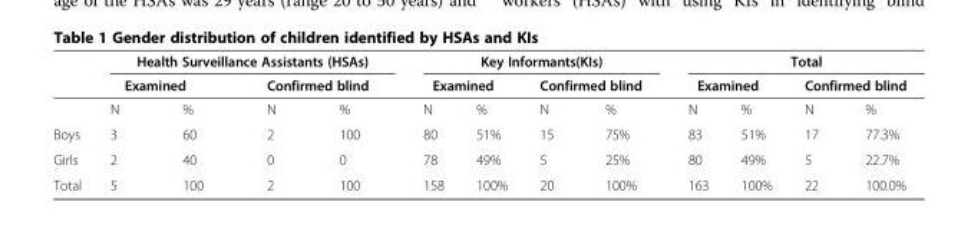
<table><thead><tr><td rowspan="3"></td><td colspan="4">Health Surveillance Assistants (HSAs)</td><td colspan="4">Key Informants(KIs)</td><td colspan="4">Total</td></tr><tr><td colspan="2">Examined</td><td colspan="2">Confirmed blind</td><td colspan="2">Examined</td><td colspan="2">Confirmed blind</td><td colspan="2">Examined</td><td colspan="2">Confirmed blind</td></tr><tr><td>N</td><td>%</td><td>N</td><td>%</td><td>N</td><td>%</td><td>N</td><td>%</td><td>N</td><td>%</td><td>N</td><td>%</td></tr></thead><tbody><tr><td>Boys</td><td>3</td><td>60</td><td>2</td><td>100</td><td>80</td><td>51%</td><td>15</td><td>75%</td><td>83</td><td>51%</td><td>17</td><td>77.3%</td></tr><tr><td>Girls</td><td>2</td><td>40</td><td>0</td><td>0</td><td>78</td><td>49%</td><td>5</td><td>25%</td><td>80</td><td>49%</td><td>5</td><td>22.7%</td></tr><tr><td>Total</td><td>5</td><td>100</td><td>2</td><td>100</td><td>158</td><td>100%</td><td>20</td><td>100%</td><td>163</td><td>100%</td><td>22</td><td>100.0%</td></tr></tbody></table>